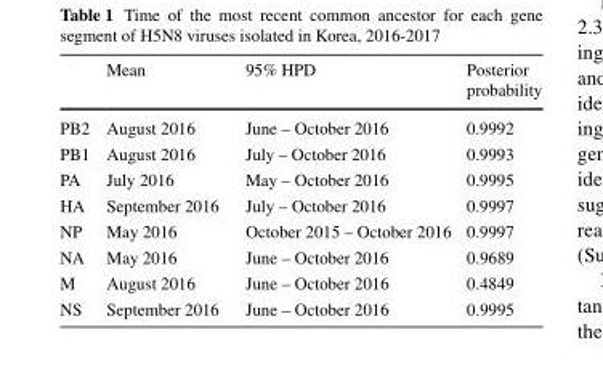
<table><thead><tr><td></td><td>Mean</td><td>95% HPD</td><td>Posterior probability</td></tr></thead><tbody><tr><td>PB2</td><td>August 2016</td><td>June – October 2016</td><td>0.9992</td></tr><tr><td>PB1</td><td>August 2016</td><td>July – October 2016</td><td>0.9993</td></tr><tr><td>PA</td><td>July 2016</td><td>May – October 2016</td><td>0.9995</td></tr><tr><td>HA</td><td>September 2016</td><td>July – October 2016</td><td>0.9997</td></tr><tr><td>NP</td><td>May 2016</td><td>October 2015 – October 2016</td><td>0.9997</td></tr><tr><td>NA</td><td>May 2016</td><td>June – October 2016</td><td>0.9689</td></tr><tr><td>M</td><td>August 2016</td><td>June – October 2016</td><td>0.4849</td></tr><tr><td>NS</td><td>September 2016</td><td>June – October 2016</td><td>0.9995</td></tr></tbody></table>